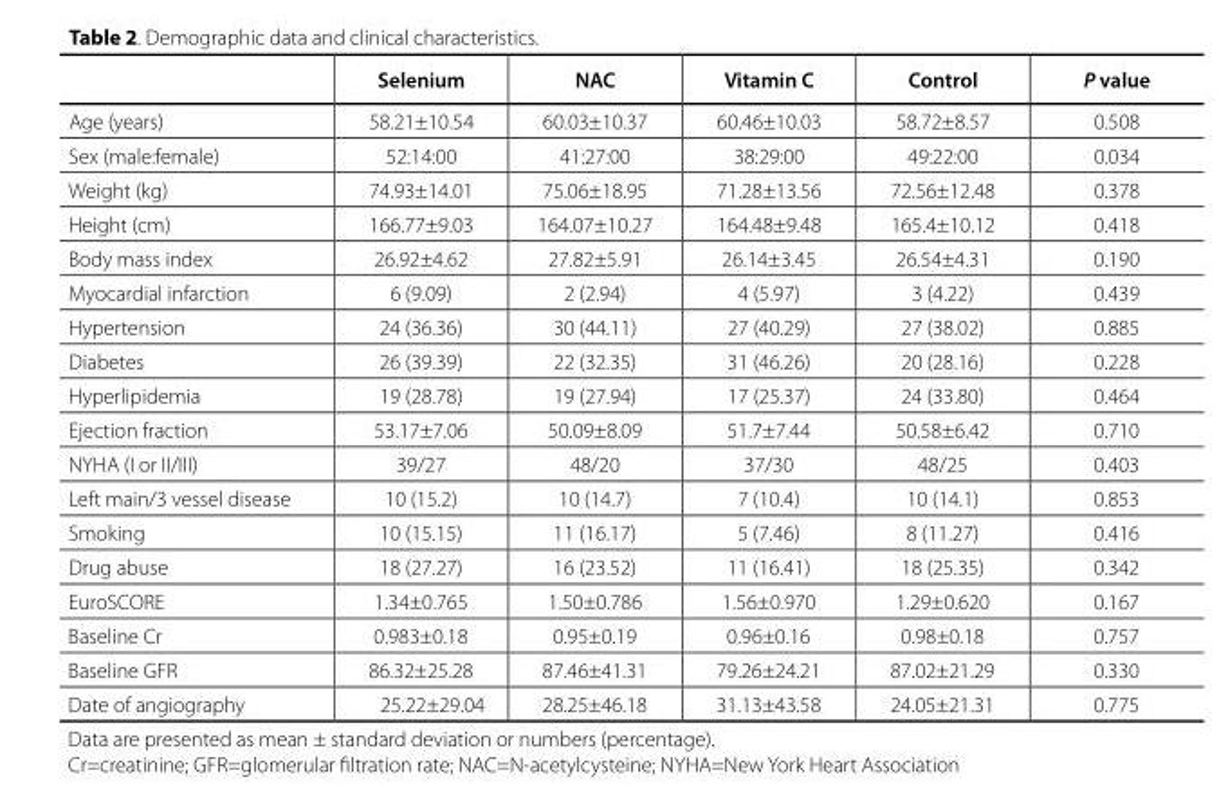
<table><thead><tr><td></td><td>Selenium</td><td>NAC</td><td>Vitamin C</td><td>Control</td><td>P value</td></tr></thead><tbody><tr><td>Age (years)</td><td>58.21±10.54</td><td>60.03±10.37</td><td>60.46±10.03</td><td>58.72±8.57</td><td>0.508</td></tr><tr><td>Sex (male:female)</td><td>52:14:00</td><td>41:27:00</td><td>38:29:00</td><td>49:22:00</td><td>0.034</td></tr><tr><td>Weight (kg)</td><td>74.93±14.01</td><td>75.06±18.95</td><td>71.28±13.56</td><td>72.56±12.48</td><td>0.378</td></tr><tr><td>Height (cm)</td><td>166.77±9.03</td><td>164.07±10.27</td><td>164.48±9.48</td><td>165.4±10.12</td><td>0.418</td></tr><tr><td>Body mass index</td><td>26.92±4.62</td><td>27.82±5.91</td><td>26.14±3.45</td><td>26.54±4.31</td><td>0.190</td></tr><tr><td>Myocardial infarction</td><td>6 (9.09)</td><td>2 (2.94)</td><td>4 (5.97)</td><td>3 (4.22)</td><td>0.439</td></tr><tr><td>Hypertension</td><td>24 (36.36)</td><td>30 (44.11)</td><td>27 (40.29)</td><td>27 (38.02)</td><td>0.885</td></tr><tr><td>Diabetes</td><td>26 (39.39)</td><td>22 (32.35)</td><td>31 (46.26)</td><td>20 (28.16)</td><td>0.228</td></tr><tr><td>Hyperlipidemia</td><td>19 (28.78)</td><td>19 (27.94)</td><td>17 (25.37)</td><td>24 (33.80)</td><td>0.464</td></tr><tr><td>Ejection fraction</td><td>53.17±7.06</td><td>50.09±8.09</td><td>51.7±7.44</td><td>50.58±6.42</td><td>0.710</td></tr><tr><td>NYHA (I or II/III)</td><td>39/27</td><td>48/20</td><td>37/30</td><td>48/25</td><td>0.403</td></tr><tr><td>Left main/3 vessel disease</td><td>10 (15.2)</td><td>10 (14.7)</td><td>7 (10.4)</td><td>10 (14.1)</td><td>0.853</td></tr><tr><td>Smoking</td><td>10 (15.15)</td><td>11 (16.17)</td><td>5 (7.46)</td><td>8 (11.27)</td><td>0.416</td></tr><tr><td>Drug abuse</td><td>18 (27.27)</td><td>16 (23.52)</td><td>11 (16.41)</td><td>18 (25.35)</td><td>0.342</td></tr><tr><td>EuroSCORE</td><td>1.34±0.765</td><td>1.50±0.786</td><td>1.56±0.970</td><td>1.29±0.620</td><td>0.167</td></tr><tr><td>Baseline Cr</td><td>0.983±0.18</td><td>0.95±0.19</td><td>0.96±0.16</td><td>0.98±0.18</td><td>0.757</td></tr><tr><td>Baseline GFR</td><td>86.32±25.28</td><td>87.46±41.31</td><td>79.26±24.21</td><td>87.02±21.29</td><td>0.330</td></tr><tr><td>Date of angiography</td><td>25.22±29.04</td><td>28.25±46.18</td><td>31.13±43.58</td><td>24.05±21.31</td><td>0.775</td></tr></tbody></table>